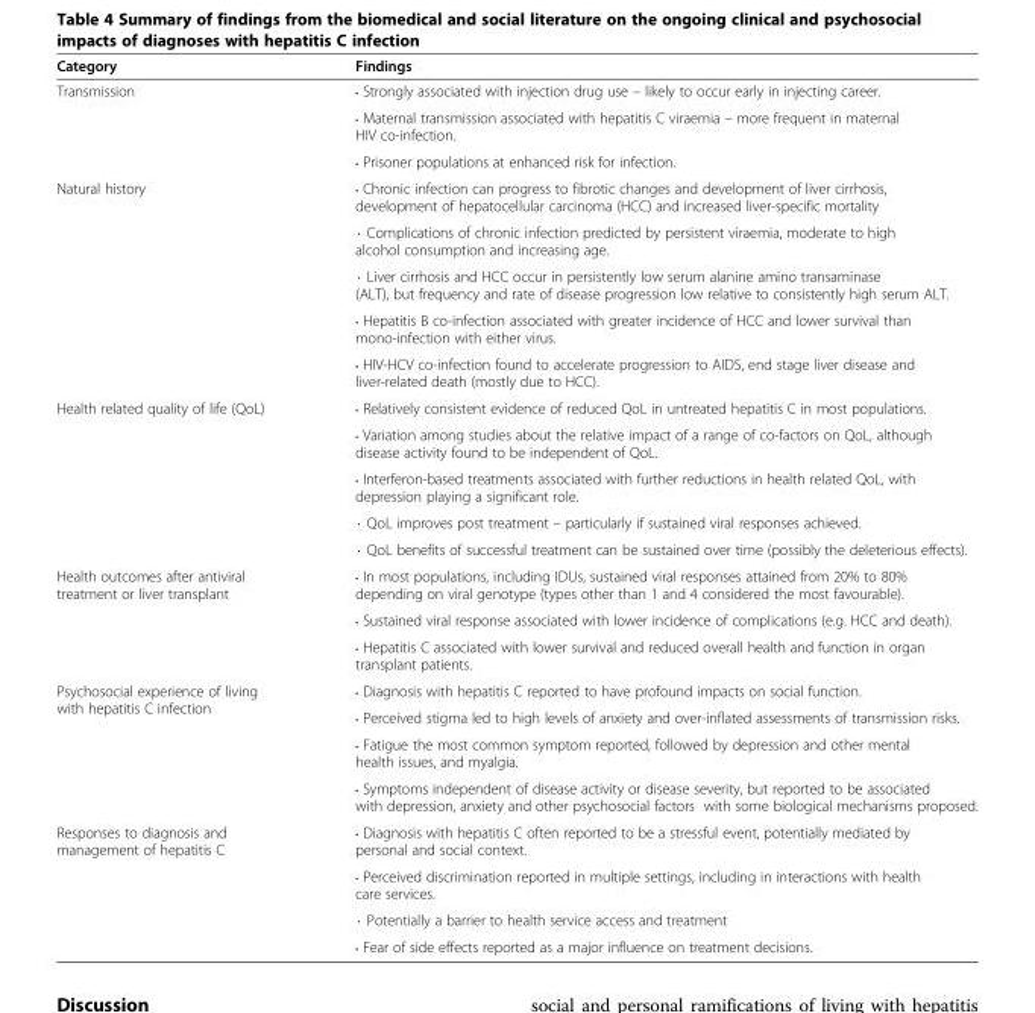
<table><thead><tr><td>Category</td><td>Findings</td></tr></thead><tbody><tr><td rowspan="3">Transmission</td><td>• Strongly associated with injection drug use – likely to occur early in injecting career.</td></tr><tr><td>• Maternal transmission associated with hepatitis C viraemia – more frequent in maternal HIV co-infection.</td></tr><tr><td>• Prisoner populations at enhanced risk for infection.</td></tr><tr><td rowspan="5">Natural history</td><td>• Chronic infection can progress to fibrotic changes and development of liver cirrhosis, development of hepatocellular carcinoma (HCC) and increased liver-specific mortality</td></tr><tr><td>• Complications of chronic infection predicted by persistent viraemia, moderate to high alcohol consumption and increasing age.</td></tr><tr><td>• Liver cirrhosis and HCC occur in persistently low serum alanine amino transaminase (ALT), but frequency and rate of disease progression low relative to consistently high serum ALT.</td></tr><tr><td>• Hepatitis B co-infection associated with greater incidence of HCC and lower survival than mono-infection with either virus.</td></tr><tr><td>• HIV-HCV co-infection found to accelerate progression to AIDS, end stage liver disease and liver-related death (mostly due to HCC).</td></tr><tr><td rowspan="5">Health related quality of life (QoL)</td><td>• Relatively consistent evidence of reduced QoL in untreated hepatitis C in most populations.</td></tr><tr><td>• Variation among studies about the relative impact of a range of co-factors on QoL, although disease activity found to be independent of QoL.</td></tr><tr><td>• Interferon-based treatments associated with further reductions in health related QoL, with depression playing a significant role.</td></tr><tr><td>• QoL improves post treatment – particularly if sustained viral responses achieved.</td></tr><tr><td>• QoL benefits of successful treatment can be sustained over time (possibly the deleterious effects).</td></tr><tr><td rowspan="3">Health outcomes after antiviral treatment or liver transplant</td><td>• In most populations, including IDUs, sustained viral responses attained from 20% to 80% depending on viral genotype (types other than 1 and 4 considered the most favourable).</td></tr><tr><td>• Sustained viral response associated with lower incidence of complications (e.g. HCC and death).</td></tr><tr><td>• Hepatitis C associated with lower survival and reduced overall health and function in organ transplant patients.</td></tr><tr><td rowspan="4">Psychosocial experience of living with hepatitis C infection</td><td>• Diagnosis with hepatitis C reported to have profound impacts on social function.</td></tr><tr><td>• Perceived stigma led to high levels of anxiety and over-inflated assessments of transmission risks.</td></tr><tr><td>• Fatigue the most common symptom reported, followed by depression and other mental health issues, and myalgia.</td></tr><tr><td>• Symptoms independent of disease activity or disease severity, but reported to be associated with depression, anxiety and other psychosocial factors with some biological mechanisms proposed.</td></tr><tr><td rowspan="4">Responses to diagnosis and management of hepatitis C</td><td>• Diagnosis with hepatitis C often reported to be a stressful event, potentially mediated by personal and social context.</td></tr><tr><td>• Perceived discrimination reported in multiple settings, including in interactions with health care services.</td></tr><tr><td>• Potentially a barrier to health service access and treatment</td></tr><tr><td>• Fear of side effects reported as a major influence on treatment decisions.</td></tr></tbody></table>